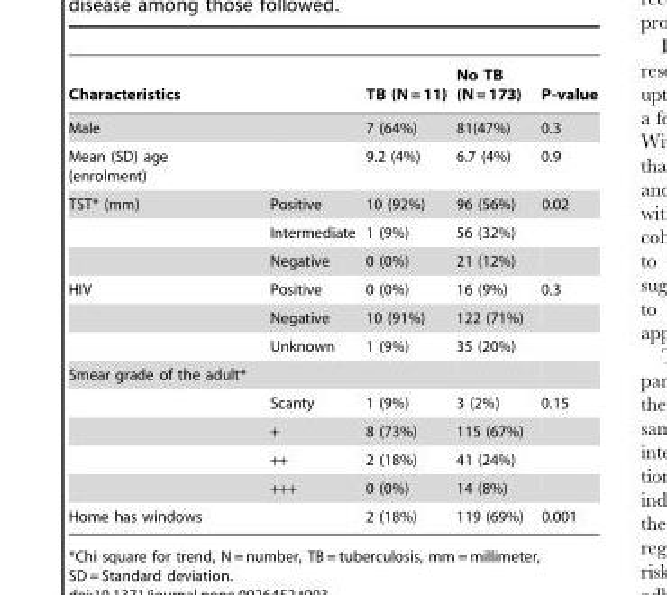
<table><thead><tr><td>Characteristics</td><td></td><td>TB (N = 11)</td><td>No TB (N = 173)</td><td>P-value</td></tr></thead><tbody><tr><td>Male</td><td></td><td>7 (64%)</td><td>81(47%)</td><td>0.3</td></tr><tr><td>Mean (SD) age (enrolment)</td><td></td><td>9.2 (4%)</td><td>6.7 (4%)</td><td>0.9</td></tr><tr><td rowspan="3">TST* (mm)</td><td>Positive</td><td>10 (92%)</td><td>96 (56%)</td><td>0.02</td></tr><tr><td>Intermediate</td><td>1 (9%)</td><td>56 (32%)</td><td></td></tr><tr><td>Negative</td><td>0 (0%)</td><td>21 (12%)</td><td></td></tr><tr><td rowspan="3">HIV</td><td>Positive</td><td>0 (0%)</td><td>16 (9%)</td><td>0.3</td></tr><tr><td>Negative</td><td>10 (91%)</td><td>122 (71%)</td><td></td></tr><tr><td>Unknown</td><td>1 (9%)</td><td>35 (20%)</td><td></td></tr><tr><td colspan="5">Smear grade of the adult*</td></tr><tr><td></td><td>Scanty</td><td>1 (9%)</td><td>3 (2%)</td><td>0.15</td></tr><tr><td></td><td>+</td><td>8 (73%)</td><td>115 (67%)</td><td></td></tr><tr><td></td><td>++</td><td>2 (18%)</td><td>41 (24%)</td><td></td></tr><tr><td></td><td>+++</td><td>0 (0%)</td><td>14 (8%)</td><td></td></tr><tr><td>Home has windows</td><td></td><td>2 (18%)</td><td>119 (69%)</td><td>0.001</td></tr></tbody></table>